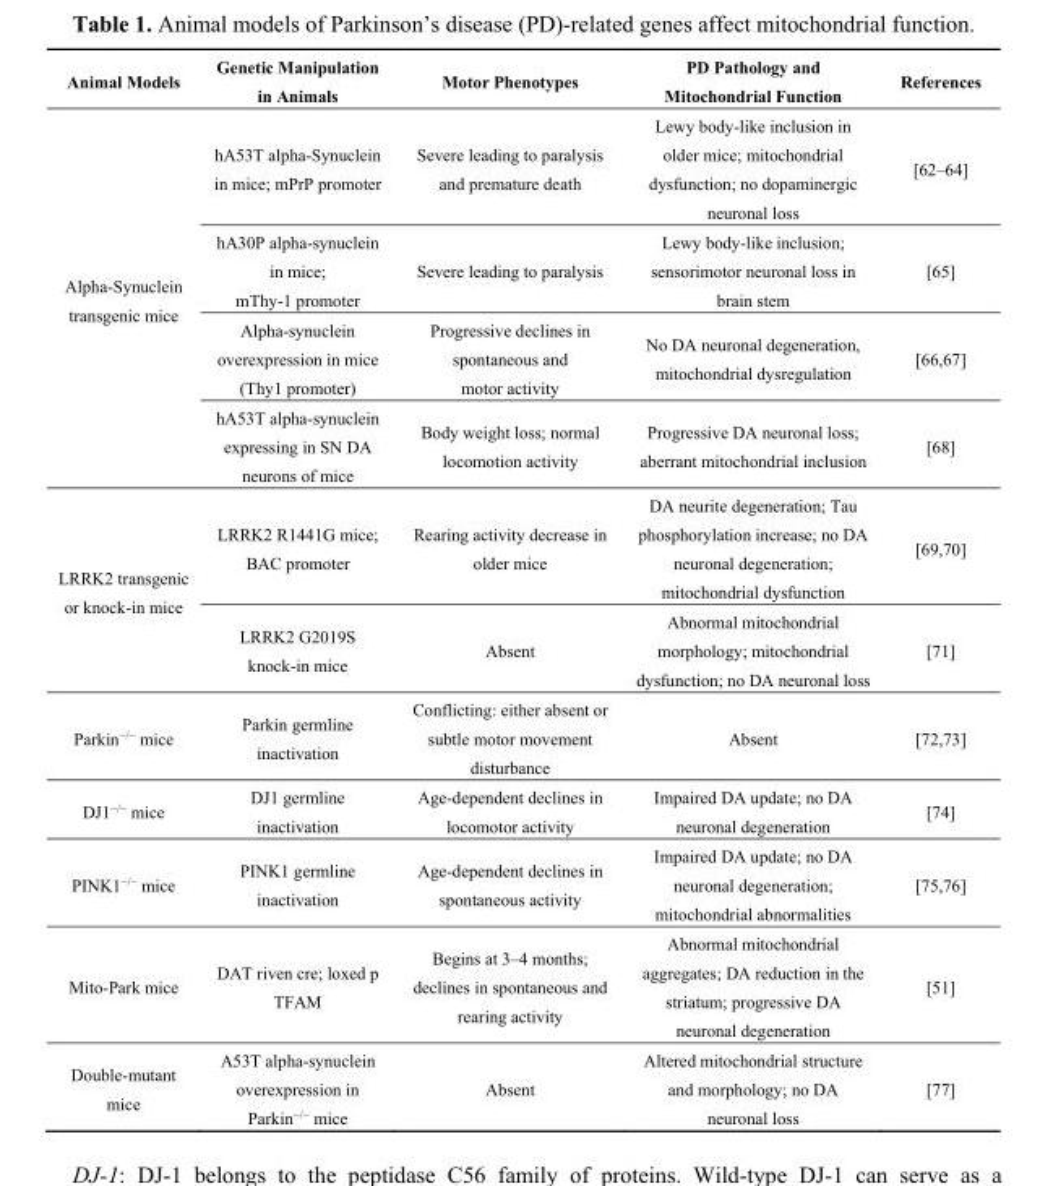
<table><thead><tr><td>Animal Models</td><td>Genetic Manipulation in Animals</td><td>Motor Phenotypes</td><td>PD Pathology and Mitochondrial Function</td><td>References</td></tr></thead><tbody><tr><td rowspan="4">Alpha-Synuclein transgenic mice</td><td>hA53T alpha-Synuclein in mice; mPrP promoter</td><td>Severe leading to paralysis and premature death</td><td>Lewy body-like inclusion in older mice; mitochondrial dysfunction; no dopaminergic neuronal loss</td><td>[62–64]</td></tr><tr><td>hA30P alpha-synuclein in mice; mThy-1 promoter</td><td>Severe leading to paralysis</td><td>Lewy body-like inclusion; sensorimotor neuronal loss in brain stem</td><td>[65]</td></tr><tr><td>Alpha-synuclein overexpression in mice (Thy1 promoter)</td><td>Progressive declines in spontaneous and motor activity</td><td>No DA neuronal degeneration, mitochondrial dysregulation</td><td>[66,67]</td></tr><tr><td>hA53T alpha-synuclein expressing in SN DA neurons of mice</td><td>Body weight loss; normal locomotion activity</td><td>Progressive DA neuronal loss; aberrant mitochondrial inclusion</td><td>[68]</td></tr><tr><td rowspan="2">LRRK2 transgenic or knock-in mice</td><td>LRRK2 R1441G mice; BAC promoter</td><td>Rearing activity decrease in older mice</td><td>DA neurite degeneration; Tau phosphorylation increase; no DA neuronal degeneration; mitochondrial dysfunction</td><td>[69,70]</td></tr><tr><td>LRRK2 G2019S knock-in mice</td><td>Absent</td><td>Abnormal mitochondrial morphology; mitochondrial dysfunction; no DA neuronal loss</td><td>[71]</td></tr><tr><td>Parkin<sup>−/−</sup> mice</td><td>Parkin germline inactivation</td><td>Conflicting: either absent or subtle motor movement disturbance</td><td>Absent</td><td>[72,73]</td></tr><tr><td>DJ1<sup>−/−</sup> mice</td><td>DJ1 germline inactivation</td><td>Age-dependent declines in locomotor activity</td><td>Impaired DA update; no DA neuronal degeneration</td><td>[74]</td></tr><tr><td>PINK1<sup>−/−</sup> mice</td><td>PINK1 germline inactivation</td><td>Age-dependent declines in spontaneous activity</td><td>Impaired DA update; no DA neuronal degeneration; mitochondrial abnormalities</td><td>[75,76]</td></tr><tr><td>Mito-Park mice</td><td>DAT riven cre; loxed p TFAM</td><td>Begins at 3–4 months; declines in spontaneous and rearing activity</td><td>Abnormal mitochondrial aggregates; DA reduction in the striatum; progressive DA neuronal degeneration</td><td>[51]</td></tr><tr><td>Double-mutant mice</td><td>A53T alpha-synuclein overexpression in Parkin<sup>−/−</sup> mice</td><td>Absent</td><td>Altered mitochondrial structure and morphology; no DA neuronal loss</td><td>[77]</td></tr></tbody></table>